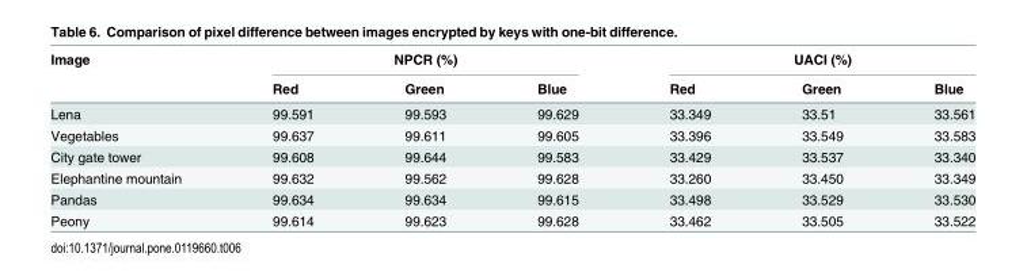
<table><thead><tr><td rowspan="2">Image</td><td colspan="3">NPCR (%)</td><td colspan="3">UACI (%)</td></tr><tr><td>Red</td><td>Green</td><td>Blue</td><td>Red</td><td>Green</td><td>Blue</td></tr></thead><tbody><tr><td>Lena</td><td>99.591</td><td>99.593</td><td>99.629</td><td>33.349</td><td>33.51</td><td>33.561</td></tr><tr><td>Vegetables</td><td>99.637</td><td>99.611</td><td>99.605</td><td>33.396</td><td>33.549</td><td>33.583</td></tr><tr><td>City gate tower</td><td>99.608</td><td>99.644</td><td>99.583</td><td>33.429</td><td>33.537</td><td>33.340</td></tr><tr><td>Elephantine mountain</td><td>99.632</td><td>99.562</td><td>99.628</td><td>33.260</td><td>33.450</td><td>33.349</td></tr><tr><td>Pandas</td><td>99.634</td><td>99.634</td><td>99.615</td><td>33.498</td><td>33.529</td><td>33.530</td></tr><tr><td>Peony</td><td>99.614</td><td>99.623</td><td>99.628</td><td>33.462</td><td>33.505</td><td>33.522</td></tr></tbody></table>